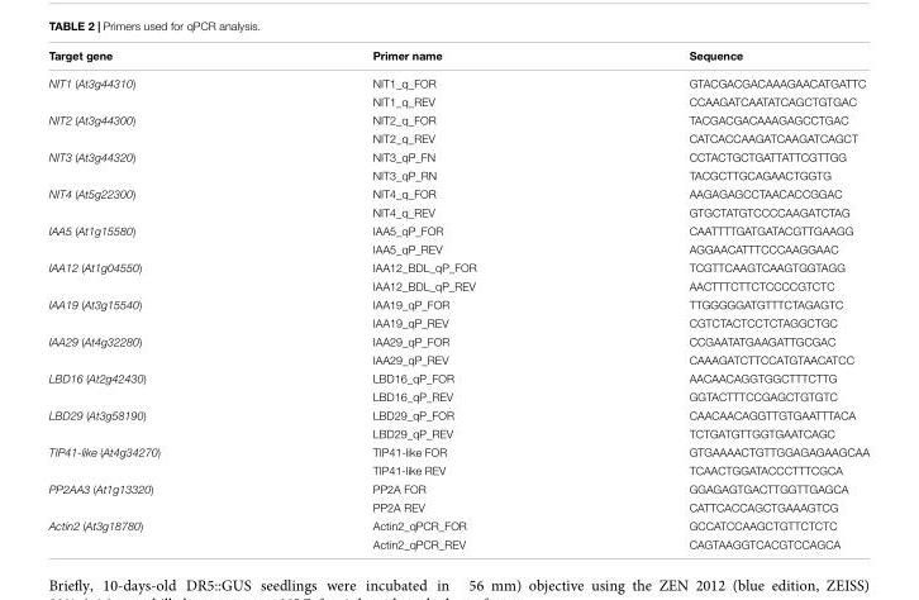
<table><thead><tr><td>Target gene</td><td>Primer name</td><td>Sequence</td></tr></thead><tbody><tr><td rowspan="2">NIT1 (At3g44310)</td><td>NIT1_q_FOR</td><td>GTACGACGACAAAGAACATGATTC</td></tr><tr><td>NIT1_q_REV</td><td>CCAAGATCAATATCAGCTGTGAC</td></tr><tr><td rowspan="2">NIT2 (At3g44300)</td><td>NIT2_q_FOR</td><td>TACGACGACAAAGAGCCTGAC</td></tr><tr><td>NIT2_q_REV</td><td>CATCACCAAGATCAAGATCAGCT</td></tr><tr><td rowspan="2">NIT3 (At3g44320)</td><td>NIT3_qP_FN</td><td>CCTACTGCTGATTATTCGTTGG</td></tr><tr><td>NIT3_qP_RN</td><td>TACGCTTGCAGAACTGGTG</td></tr><tr><td rowspan="2">NIT4 (At5g22300)</td><td>NIT4_q_FOR</td><td>AAGAGAGCCTAACACCGGAC</td></tr><tr><td>NIT4_q_REV</td><td>GTGCTATGTCCCCAAGATCTAG</td></tr><tr><td rowspan="2">IAA5 (At1g15580)</td><td>IAA5_qP_FOR</td><td>CAATTTTGATGATACGTTGAAGG</td></tr><tr><td>IAA5_qP_REV</td><td>AGGAACATTTCCCAAGGAAC</td></tr><tr><td rowspan="2">IAA12 (At1g04550)</td><td>IAA12_BDL_qP_FOR</td><td>TCGTTCAAGTCAAGTGGTAGG</td></tr><tr><td>IAA12_BDL_qP_REV</td><td>AACTTTCTTCTCCCCGTCTC</td></tr><tr><td rowspan="2">IAA19 (At3g15540)</td><td>IAA19_qP_FOR</td><td>TTGGGGGATGTTTCTAGAGTC</td></tr><tr><td>IAA19_qP_REV</td><td>CGTCTACTCCTCTAGGCTGC</td></tr><tr><td rowspan="2">IAA29 (At4g32280)</td><td>IAA29_qP_FOR</td><td>CCGAATATGAAGATTGCGAC</td></tr><tr><td>IAA29_qP_REV</td><td>CAAAGATCTTCCATGTAACATCC</td></tr><tr><td rowspan="2">LBD16 (At2g42430)</td><td>LBD16_qP_FOR</td><td>AACAACAGGTGGCTTTCTTG</td></tr><tr><td>LBD16_qP_REV</td><td>GGTACTTTCCGAGCTGTGTC</td></tr><tr><td rowspan="2">LBD29 (At3g58190)</td><td>LBD29_qP_FOR</td><td>CAACAACAGGTTGTGAATTTACA</td></tr><tr><td>LBD29_qP_REV</td><td>TCTGATGTTGGTGAATCAGC</td></tr><tr><td rowspan="2">TIP41-like (At4g34270)</td><td>TIP41-like FOR</td><td>GTGAAAACTGTTGGAGAGAAGCAA</td></tr><tr><td>TIP41-like REV</td><td>TCAACTGGATACCCTTTCGCA</td></tr><tr><td rowspan="2">PP2AA3 (At1g13320)</td><td>PP2A FOR</td><td>GGAGAGTGACTTGGTTGAGCA</td></tr><tr><td>PP2A REV</td><td>CATTCACCAGCTGAAAGTCG</td></tr><tr><td rowspan="2">Actin2 (At3g18780)</td><td>Actin2_qPCR_FOR</td><td>GCCATCCAAGCTGTTCTCTC</td></tr><tr><td>Actin2_qPCR_REV</td><td>CAGTAAGGTCACGTCCAGCA</td></tr></tbody></table>